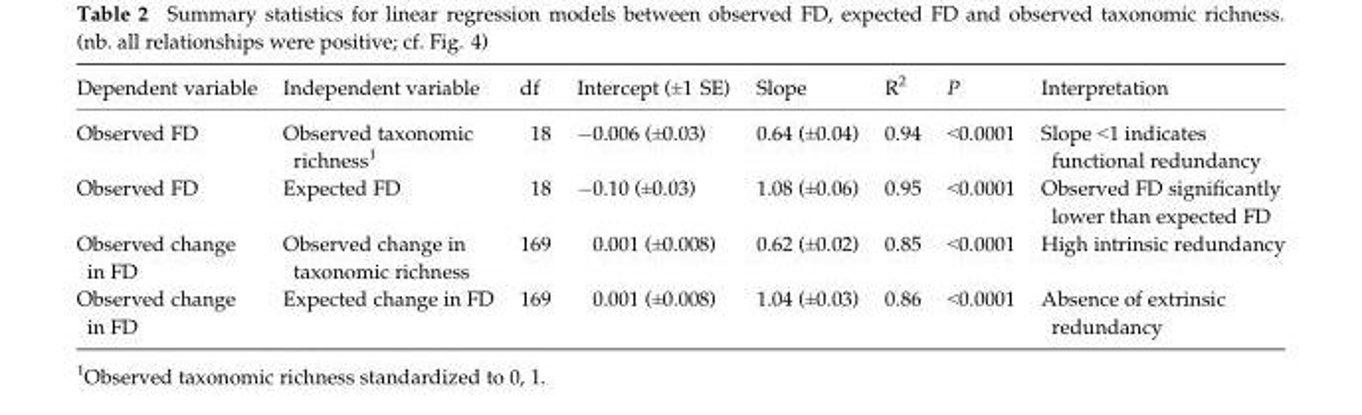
<table><thead><tr><td>Dependent variable</td><td>Independent variable</td><td>df</td><td>Intercept (±1 SE)</td><td>Slope</td><td>R<sup>2</sup></td><td>P</td><td>Interpretation</td></tr></thead><tbody><tr><td>Observed FD</td><td>Observed taxonomic richness<sup>1</sup></td><td>18</td><td>−0.006 (±0.03)</td><td>0.64 (±0.04)</td><td>0.94</td><td>&lt;0.0001</td><td>Slope &lt;1 indicates functional redundancy</td></tr><tr><td>Observed FD</td><td>Expected FD</td><td>18</td><td>−0.10 (±0.03)</td><td>1.08 (±0.06)</td><td>0.95</td><td>&lt;0.0001</td><td>Observed FD significantly lower than expected FD</td></tr><tr><td>Observed change in FD</td><td>Observed change in taxonomic richness</td><td>169</td><td>0.001 (±0.008)</td><td>0.62 (±0.02)</td><td>0.85</td><td>&lt;0.0001</td><td>High intrinsic redundancy</td></tr><tr><td>Observed change in FD</td><td>Expected change in FD</td><td>169</td><td>0.001 (±0.008)</td><td>1.04 (±0.03)</td><td>0.86</td><td>&lt;0.0001</td><td>Absence of extrinsic redundancy</td></tr></tbody></table>